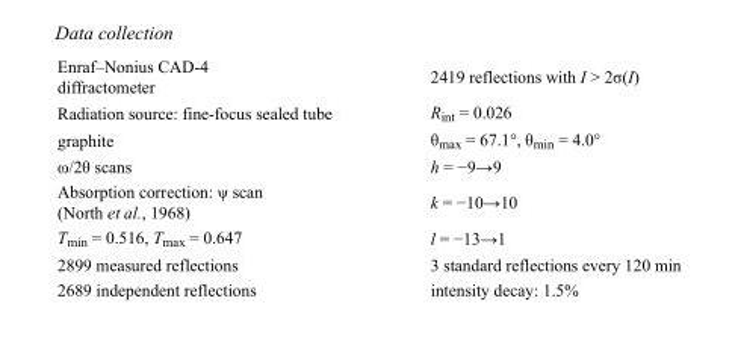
<table><tbody><tr><td>Enraf–Nonius CAD-4 diffractometer</td><td>2419 reflections with I &gt; 2σ(I)</td></tr><tr><td>Radiation source: fine-focus sealed tube</td><td>R<sub>int</sub> = 0.026</td></tr><tr><td>graphite</td><td>θ<sub>max</sub> = 67.1°, θ<sub>min</sub> = 4.0°</td></tr><tr><td>ω/2θ scans</td><td>h = −9→9</td></tr><tr><td>Absorption correction: ψ scan (North et al., 1968)</td><td>k = −10→10</td></tr><tr><td>T<sub>min</sub> = 0.516, T<sub>max</sub> = 0.647</td><td>l = −13→1</td></tr><tr><td>2899 measured reflections</td><td>3 standard reflections every 120 min</td></tr><tr><td>2689 independent reflections</td><td>intensity decay: 1.5%</td></tr></tbody></table>